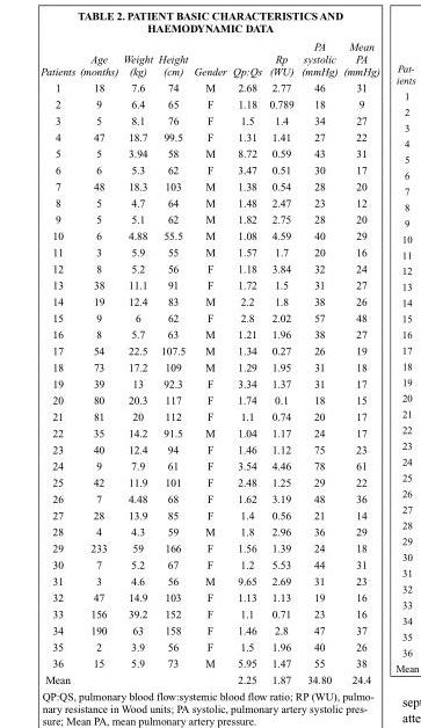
<table><thead><tr><td>Patients</td><td>Age (months)</td><td>Weight (kg)</td><td>Height (cm)</td><td>Gender</td><td>Qp:Qs</td><td>Rp (WU)</td><td>PA systolic (mmHg)</td><td>Mean PA (mmHg)</td></tr></thead><tbody><tr><td>1</td><td>18</td><td>7.6</td><td>74</td><td>M</td><td>2.68</td><td>2.77</td><td>46</td><td>31</td></tr><tr><td>2</td><td>9</td><td>6.4</td><td>65</td><td>F</td><td>1.18</td><td>0.789</td><td>18</td><td>9</td></tr><tr><td>3</td><td>5</td><td>8.1</td><td>76</td><td>F</td><td>1.5</td><td>1.4</td><td>34</td><td>27</td></tr><tr><td>4</td><td>47</td><td>18.7</td><td>99.5</td><td>F</td><td>1.31</td><td>1.41</td><td>27</td><td>22</td></tr><tr><td>5</td><td>5</td><td>3.94</td><td>58</td><td>M</td><td>8.72</td><td>0.59</td><td>43</td><td>31</td></tr><tr><td>6</td><td>6</td><td>5.3</td><td>62</td><td>F</td><td>3.47</td><td>0.51</td><td>30</td><td>17</td></tr><tr><td>7</td><td>48</td><td>18.3</td><td>103</td><td>M</td><td>1.38</td><td>0.54</td><td>28</td><td>20</td></tr><tr><td>8</td><td>5</td><td>4.7</td><td>64</td><td>M</td><td>1.48</td><td>2.47</td><td>23</td><td>12</td></tr><tr><td>9</td><td>5</td><td>5.1</td><td>62</td><td>M</td><td>1.82</td><td>2.75</td><td>28</td><td>20</td></tr><tr><td>10</td><td>6</td><td>4.88</td><td>55.5</td><td>M</td><td>1.08</td><td>4.59</td><td>40</td><td>29</td></tr><tr><td>11</td><td>3</td><td>5.9</td><td>55</td><td>M</td><td>1.57</td><td>1.7</td><td>20</td><td>16</td></tr><tr><td>12</td><td>8</td><td>5.2</td><td>56</td><td>F</td><td>1.18</td><td>3.84</td><td>32</td><td>24</td></tr><tr><td>13</td><td>38</td><td>11.1</td><td>91</td><td>F</td><td>1.72</td><td>1.5</td><td>31</td><td>27</td></tr><tr><td>14</td><td>19</td><td>12.4</td><td>83</td><td>M</td><td>2.2</td><td>1.8</td><td>38</td><td>26</td></tr><tr><td>15</td><td>9</td><td>6</td><td>62</td><td>F</td><td>2.8</td><td>2.02</td><td>57</td><td>48</td></tr><tr><td>16</td><td>8</td><td>5.7</td><td>63</td><td>M</td><td>1.21</td><td>1.96</td><td>38</td><td>27</td></tr><tr><td>17</td><td>54</td><td>22.5</td><td>107.5</td><td>M</td><td>1.34</td><td>0.27</td><td>26</td><td>19</td></tr><tr><td>18</td><td>73</td><td>17.2</td><td>109</td><td>M</td><td>1.29</td><td>1.95</td><td>31</td><td>18</td></tr><tr><td>19</td><td>39</td><td>13</td><td>92.3</td><td>F</td><td>3.34</td><td>1.37</td><td>31</td><td>17</td></tr><tr><td>20</td><td>80</td><td>20.3</td><td>117</td><td>F</td><td>1.74</td><td>0.1</td><td>18</td><td>15</td></tr><tr><td>21</td><td>81</td><td>20</td><td>112</td><td>F</td><td>1.1</td><td>0.74</td><td>20</td><td>17</td></tr><tr><td>22</td><td>35</td><td>14.2</td><td>91.5</td><td>M</td><td>1.04</td><td>1.17</td><td>24</td><td>17</td></tr><tr><td>23</td><td>40</td><td>12.4</td><td>94</td><td>F</td><td>1.46</td><td>1.12</td><td>75</td><td>23</td></tr><tr><td>24</td><td>9</td><td>7.9</td><td>61</td><td>F</td><td>3.54</td><td>4.46</td><td>78</td><td>61</td></tr><tr><td>25</td><td>42</td><td>11.9</td><td>101</td><td>F</td><td>2.48</td><td>1.25</td><td>29</td><td>22</td></tr><tr><td>26</td><td>7</td><td>4.48</td><td>68</td><td>F</td><td>1.62</td><td>3.19</td><td>48</td><td>36</td></tr><tr><td>27</td><td>28</td><td>13.9</td><td>85</td><td>F</td><td>1.4</td><td>0.56</td><td>21</td><td>14</td></tr><tr><td>28</td><td>4</td><td>4.3</td><td>59</td><td>M</td><td>1.8</td><td>2.96</td><td>36</td><td>29</td></tr><tr><td>29</td><td>233</td><td>59</td><td>166</td><td>F</td><td>1.56</td><td>1.39</td><td>24</td><td>18</td></tr><tr><td>30</td><td>7</td><td>5.2</td><td>67</td><td>F</td><td>1.2</td><td>5.53</td><td>44</td><td>31</td></tr><tr><td>31</td><td>3</td><td>4.6</td><td>56</td><td>M</td><td>9.65</td><td>2.69</td><td>31</td><td>23</td></tr><tr><td>32</td><td>47</td><td>14.9</td><td>103</td><td>F</td><td>1.13</td><td>1.13</td><td>19</td><td>16</td></tr><tr><td>33</td><td>156</td><td>39.2</td><td>152</td><td>F</td><td>1.1</td><td>0.71</td><td>23</td><td>16</td></tr><tr><td>34</td><td>190</td><td>63</td><td>158</td><td>F</td><td>1.46</td><td>2.8</td><td>47</td><td>37</td></tr><tr><td>35</td><td>2</td><td>3.9</td><td>56</td><td>F</td><td>1.5</td><td>1.96</td><td>40</td><td>26</td></tr><tr><td>36</td><td>15</td><td>5.9</td><td>73</td><td>M</td><td>5.95</td><td>1.47</td><td>55</td><td>38</td></tr><tr><td>Mean</td><td></td><td></td><td></td><td></td><td>2.25</td><td>1.87</td><td>34.80</td><td>24.4</td></tr></tbody></table>